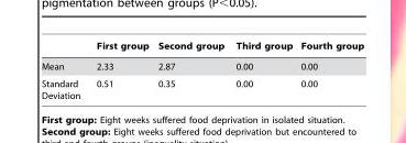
<table><thead><tr><td></td><td>First group</td><td>Second group</td><td>Third group</td><td>Fourth group</td></tr></thead><tbody><tr><td>Mean</td><td>2.33</td><td>2.87</td><td>0.00</td><td>0.00</td></tr><tr><td>Standard Deviation</td><td>0.51</td><td>0.35</td><td>0.00</td><td>0.00</td></tr></tbody></table>